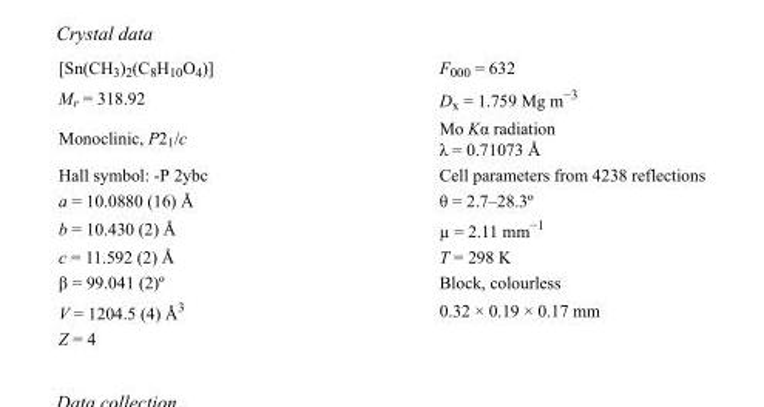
<table><tbody><tr><td>[Sn(CH<sub>3</sub>)<sub>2</sub>(C<sub>8</sub>H<sub>10</sub>O<sub>4</sub>)]</td><td>F000 = 632</td></tr><tr><td>M<sub>r</sub> = 318.92</td><td>D<sub>x</sub> = 1.759 Mg m<sup>−3</sup></td></tr><tr><td>Monoclinic, P2<sub>1</sub>/c</td><td>Mo Kα radiation λ = 0.71073 Å</td></tr><tr><td>Hall symbol: -P 2ybc</td><td>Cell parameters from 4238 reflections</td></tr><tr><td>a = 10.0880 (16) Å</td><td>θ = 2.7–28.3º</td></tr><tr><td>b = 10.430 (2) Å</td><td>µ = 2.11 mm<sup>−1</sup></td></tr><tr><td>c = 11.592 (2) Å</td><td>T = 298 K</td></tr><tr><td>β = 99.041 (2)º</td><td>Block, colourless</td></tr><tr><td>V = 1204.5 (4) Å<sup>3</sup></td><td>0.32 × 0.19 × 0.17 mm</td></tr><tr><td>Z = 4</td><td></td></tr></tbody></table>